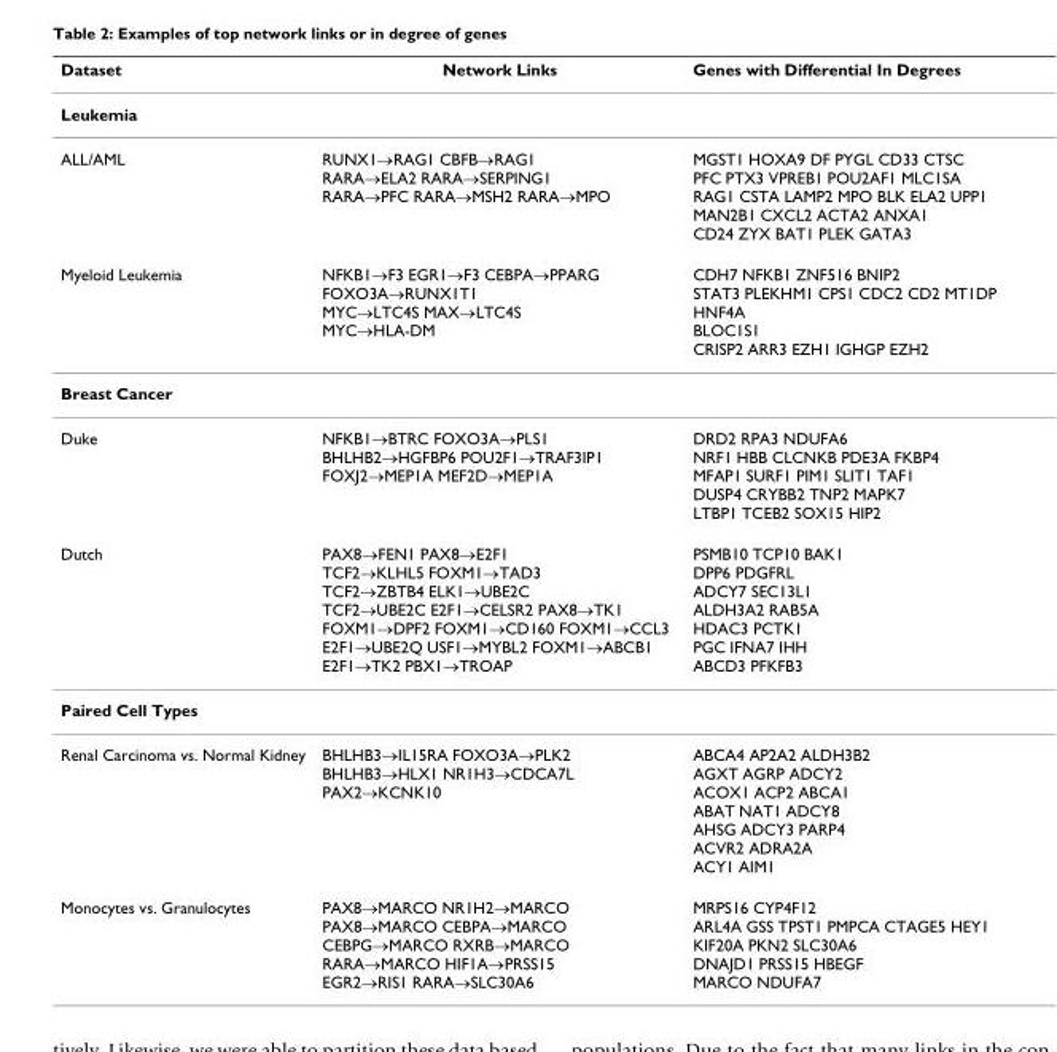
<table><thead><tr><td>Dataset</td><td>Network Links</td><td>Genes with Differential In Degrees</td></tr></thead><tbody><tr><td colspan="3">Leukemia</td></tr><tr><td>ALL/AML</td><td>RUNX1→RAG1 CBFB→RAG1 RARA→ELA2 RARA→SERPING1 RARA→PFC RARA→MSH2 RARA→MPO</td><td>MGST1 HOXA9 DF PYGL CD33 CTSC PFC PTX3 VPREB1 POU2AF1 MLC1SA RAG1 CSTA LAMP2 MPO BLK ELA2 UPP1 MAN2B1 CXCL2 ACTA2 ANXA1 CD24 ZYX BAT1 PLEK GATA3</td></tr><tr><td>Myeloid Leukemia</td><td>NFKB1→F3 EGR1→F3 CEBPA→PPARG FOXO3A→RUNX1T1 MYC→LTC4S MAX→LTC4S MYC→HLA-DM</td><td>CDH7 NFKB1 ZNF516 BNIP2 STAT3 PLEKHM1 CPS1 CDC2 CD2 MT1DP HNF4A BLOC1S1 CRISP2 ARR3 EZH1 IGHGP EZH2</td></tr><tr><td colspan="3">Breast Cancer</td></tr><tr><td>Duke</td><td>NFKB1→BTRC FOXO3A→PLS1 BHLHB2→HGFBP6 POU2F1→TRAF3IP1 FOXJ2→MEP1A MEF2D→MEP1A</td><td>DRD2 RPA3 NDUFA6 NRF1 HBB CLCNKB PDE3A FKBP4 MFAP1 SURF1 PIM1 SLIT1 TAF1 DUSP4 CRYBB2 TNP2 MAPK7 LTBP1 TCEB2 SOX15 HIP2</td></tr><tr><td>Dutch</td><td>PAX8→FEN1 PAX8→E2F1 TCF2→KLHL5 FOXM1→TAD3 TCF2→ZBTB4 ELK1→UBE2C TCF2→UBE2C E2F1→CELSR2 PAX8→TK1 FOXM1→DPF2 FOXM1→CD160 FOXM1→CCL3 E2F1→UBE2Q USF1→MYBL2 FOXM1→ABCB1 E2F1→TK2 PBX1→TROAP</td><td>PSMB10 TCP10 BAK1 DPP6 PDGFRL ADCY7 SEC13L1 ALDH3A2 RAB5A HDAC3 PCTK1 PGC IFNA7 IHH ABCD3 PFKFB3</td></tr><tr><td colspan="3">Paired Cell Types</td></tr><tr><td>Renal Carcinoma vs. Normal Kidney</td><td>BHLHB3→IL15RA FOXO3A→PLK2 BHLHB3→HLX1 NR1H3→CDCA7L PAX2→KCNK10</td><td>ABCA4 AP2A2 ALDH3B2 AGXT AGRP ADCY2 ACOX1 ACP2 ABCA1 ABAT NAT1 ADCY8 AHSG ADCY3 PARP4 ACVR2 ADRA2A ACY1 AIM1</td></tr><tr><td>Monocytes vs. Granulocytes</td><td>PAX8→MARCO NR1H2→MARCO PAX8→MARCO CEBPA→MARCO CEBPG→MARCO RXRB→MARCO RARA→MARCO HIF1A→PRSS15 EGR2→RIS1 RARA→SLC30A6</td><td>MRPS16 CYP4F12 ARL4A GSS TPST1 PMPCA CTAGE5 HEY1 KIF20A PKN2 SLC30A6 DNAJD1 PRSS15 HBEGF MARCO NDUFA7</td></tr></tbody></table>